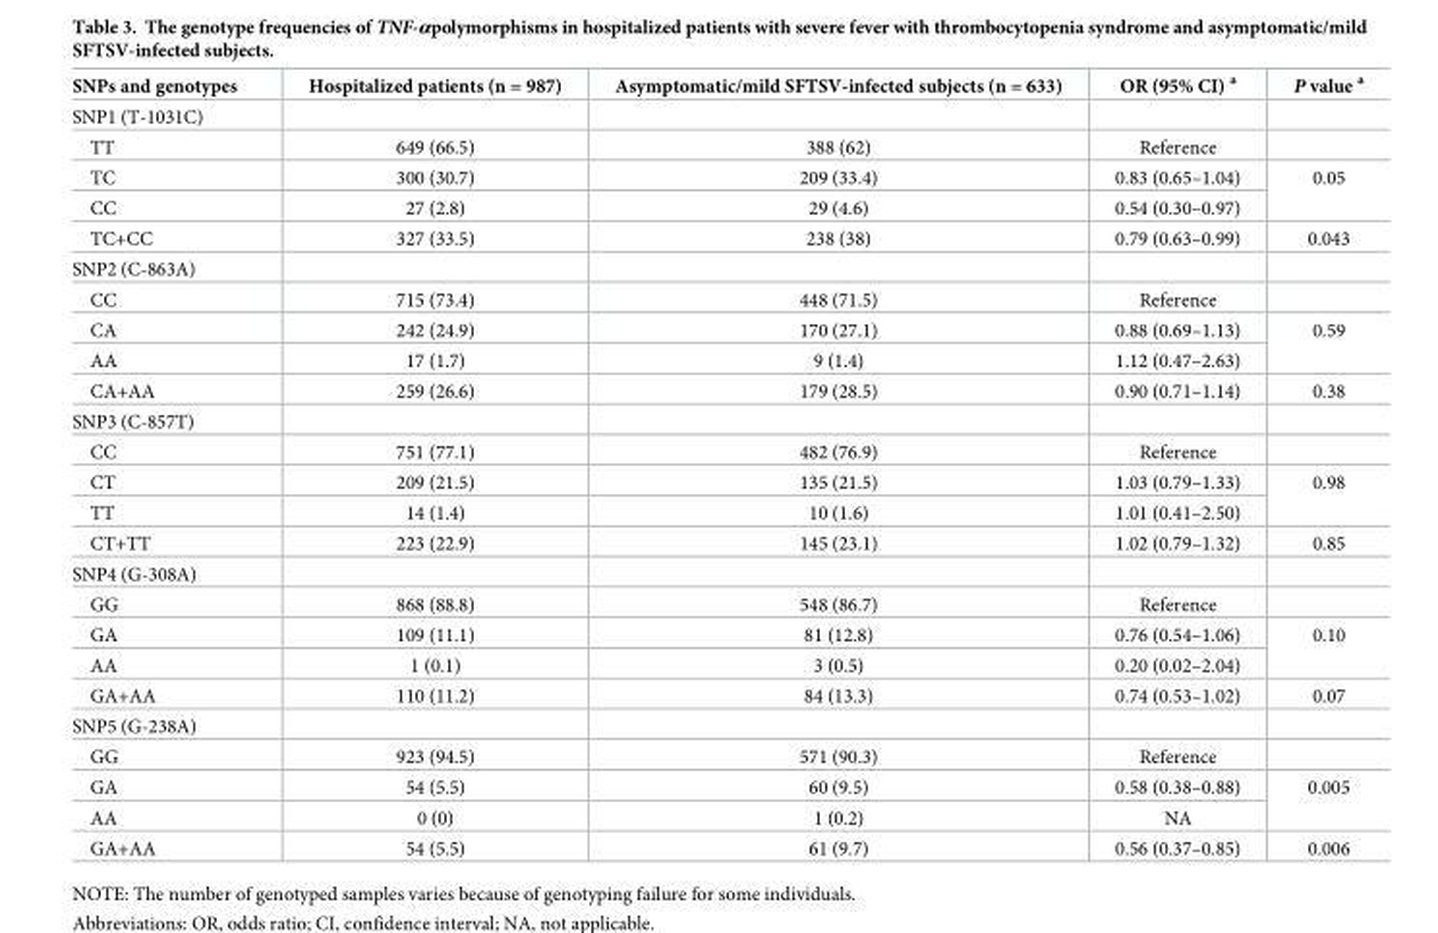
<table><thead><tr><td>SNPs and genotypes</td><td>Hospitalized patients (n = 987)</td><td>Asymptomatic/mild SFTSV-infected subjects (n = 633)</td><td>OR (95% CI) <sup>a</sup></td><td>P value <sup>a</sup></td></tr></thead><tbody><tr><td colspan="5">SNP1 (T-1031C)</td></tr><tr><td>TT</td><td>649 (66.5)</td><td>388 (62)</td><td>Reference</td><td></td></tr><tr><td>TC</td><td>300 (30.7)</td><td>209 (33.4)</td><td>0.83 (0.65–1.04)</td><td rowspan="2">0.05</td></tr><tr><td>CC</td><td>27 (2.8)</td><td>29 (4.6)</td><td>0.54 (0.30–0.97)</td></tr><tr><td>TC+CC</td><td>327 (33.5)</td><td>238 (38)</td><td>0.79 (0.63–0.99)</td><td>0.043</td></tr><tr><td colspan="5">SNP2 (C-863A)</td></tr><tr><td>CC</td><td>715 (73.4)</td><td>448 (71.5)</td><td>Reference</td><td></td></tr><tr><td>CA</td><td>242 (24.9)</td><td>170 (27.1)</td><td>0.88 (0.69–1.13)</td><td rowspan="2">0.59</td></tr><tr><td>AA</td><td>17 (1.7)</td><td>9 (1.4)</td><td>1.12 (0.47–2.63)</td></tr><tr><td>CA+AA</td><td>259 (26.6)</td><td>179 (28.5)</td><td>0.90 (0.71–1.14)</td><td>0.38</td></tr><tr><td colspan="5">SNP3 (C-857T)</td></tr><tr><td>CC</td><td>751 (77.1)</td><td>482 (76.9)</td><td>Reference</td><td></td></tr><tr><td>CT</td><td>209 (21.5)</td><td>135 (21.5)</td><td>1.03 (0.79–1.33)</td><td rowspan="2">0.98</td></tr><tr><td>TT</td><td>14 (1.4)</td><td>10 (1.6)</td><td>1.01 (0.41–2.50)</td></tr><tr><td>CT+TT</td><td>223 (22.9)</td><td>145 (23.1)</td><td>1.02 (0.79–1.32)</td><td>0.85</td></tr><tr><td colspan="5">SNP4 (G-308A)</td></tr><tr><td>GG</td><td>868 (88.8)</td><td>548 (86.7)</td><td>Reference</td><td></td></tr><tr><td>GA</td><td>109 (11.1)</td><td>81 (12.8)</td><td>0.76 (0.54–1.06)</td><td rowspan="2">0.10</td></tr><tr><td>AA</td><td>1 (0.1)</td><td>3 (0.5)</td><td>0.20 (0.02–2.04)</td></tr><tr><td>GA+AA</td><td>110 (11.2)</td><td>84 (13.3)</td><td>0.74 (0.53–1.02)</td><td>0.07</td></tr><tr><td colspan="5">SNP5 (G-238A)</td></tr><tr><td>GG</td><td>923 (94.5)</td><td>571 (90.3)</td><td>Reference</td><td></td></tr><tr><td>GA</td><td>54 (5.5)</td><td>60 (9.5)</td><td>0.58 (0.38–0.88)</td><td rowspan="2">0.005</td></tr><tr><td>AA</td><td>0 (0)</td><td>1 (0.2)</td><td>NA</td></tr><tr><td>GA+AA</td><td>54 (5.5)</td><td>61 (9.7)</td><td>0.56 (0.37–0.85)</td><td>0.006</td></tr></tbody></table>